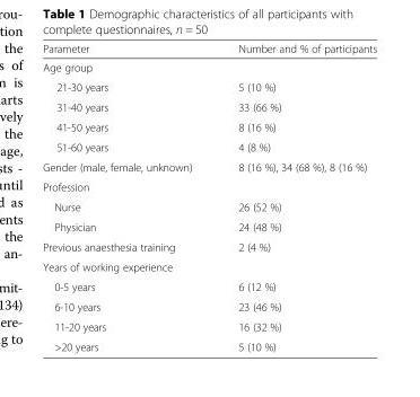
<table><thead><tr><td>Parameter</td><td>Number and % of participants</td></tr></thead><tbody><tr><td colspan="2">Age group</td></tr><tr><td>21-30 years</td><td>5 (10 %)</td></tr><tr><td>31-40 years</td><td>33 (66 %)</td></tr><tr><td>41-50 years</td><td>8 (16 %)</td></tr><tr><td>51-60 years</td><td>4 (8 %)</td></tr><tr><td>Gender (male, female, unknown)</td><td>8 (16 %), 34 (68 %), 8 (16 %)</td></tr><tr><td colspan="2">Profession</td></tr><tr><td>Nurse</td><td>26 (52 %)</td></tr><tr><td>Physician</td><td>24 (48 %)</td></tr><tr><td>Previous anaesthesia training</td><td>2 (4 %)</td></tr><tr><td colspan="2">Years of working experience</td></tr><tr><td>0-5 years</td><td>6 (12 %)</td></tr><tr><td>6-10 years</td><td>23 (46 %)</td></tr><tr><td>11-20 years</td><td>16 (32 %)</td></tr><tr><td>&gt;20 years</td><td>5 (10 %)</td></tr></tbody></table>